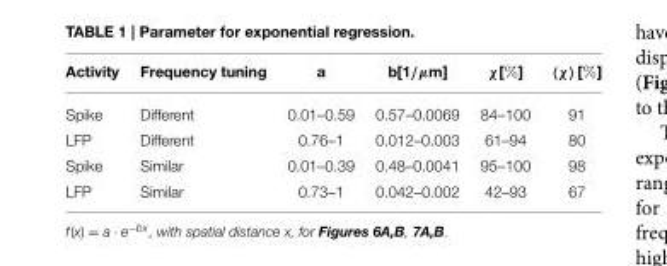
<table><thead><tr><td>Activity</td><td>Frequency tuning</td><td>a</td><td>b[1/µm]</td><td>χ[%]</td><td>⟨χ⟩ [%]</td></tr></thead><tbody><tr><td>Spike</td><td>Different</td><td>0.01–0.59</td><td>0.57–0.0069</td><td>84–100</td><td>91</td></tr><tr><td>LFP</td><td>Different</td><td>0.76–1</td><td>0.012–0.003</td><td>61–94</td><td>80</td></tr><tr><td>Spike</td><td>Similar</td><td>0.01–0.39</td><td>0.48–0.0041</td><td>95–100</td><td>98</td></tr><tr><td>LFP</td><td>Similar</td><td>0.73–1</td><td>0.042–0.002</td><td>42–93</td><td>67</td></tr></tbody></table>